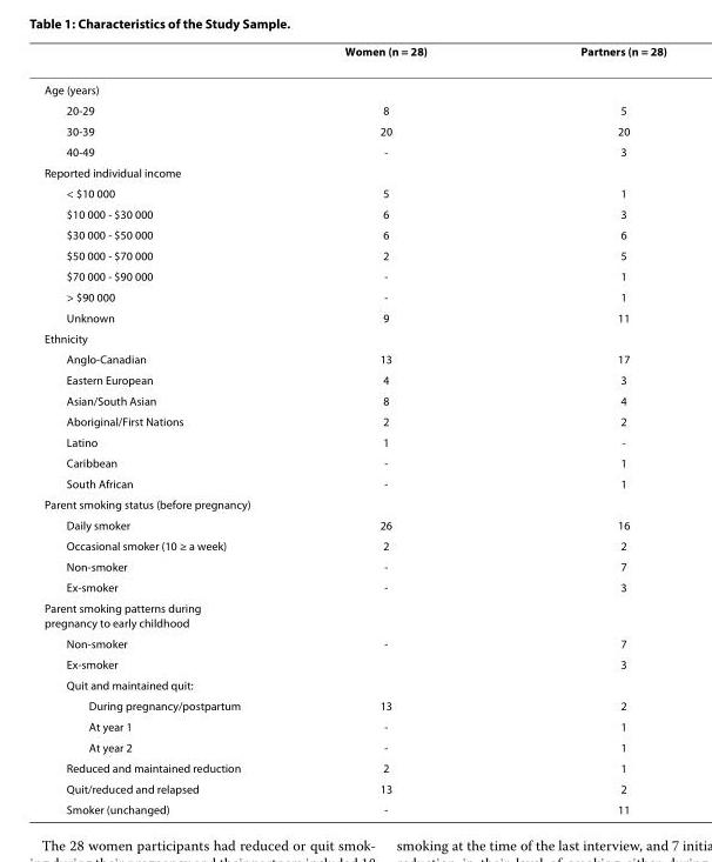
<table><thead><tr><td></td><td>Women (n = 28)</td><td>Partners (n = 28)</td></tr></thead><tbody><tr><td colspan="3">Age (years)</td></tr><tr><td>20-29</td><td>8</td><td>5</td></tr><tr><td>30-39</td><td>20</td><td>20</td></tr><tr><td>40-49</td><td>-</td><td>3</td></tr><tr><td colspan="3">Reported individual income</td></tr><tr><td>&lt; $10 000</td><td>5</td><td>1</td></tr><tr><td>$10 000 - $30 000</td><td>6</td><td>3</td></tr><tr><td>$30 000 - $50 000</td><td>6</td><td>6</td></tr><tr><td>$50 000 - $70 000</td><td>2</td><td>5</td></tr><tr><td>$70 000 - $90 000</td><td>-</td><td>1</td></tr><tr><td>&gt; $90 000</td><td>-</td><td>1</td></tr><tr><td>Unknown</td><td>9</td><td>11</td></tr><tr><td colspan="3">Ethnicity</td></tr><tr><td>Anglo-Canadian</td><td>13</td><td>17</td></tr><tr><td>Eastern European</td><td>4</td><td>3</td></tr><tr><td>Asian/South Asian</td><td>8</td><td>4</td></tr><tr><td>Aboriginal/First Nations</td><td>2</td><td>2</td></tr><tr><td>Latino</td><td>1</td><td>-</td></tr><tr><td>Caribbean</td><td>-</td><td>1</td></tr><tr><td>South African</td><td>-</td><td>1</td></tr><tr><td colspan="3">Parent smoking status (before pregnancy)</td></tr><tr><td>Daily smoker</td><td>26</td><td>16</td></tr><tr><td>Occasional smoker (10 ≥ a week)</td><td>2</td><td>2</td></tr><tr><td>Non-smoker</td><td>-</td><td>7</td></tr><tr><td>Ex-smoker</td><td>-</td><td>3</td></tr><tr><td colspan="3">Parent smoking patterns during pregnancy to early childhood</td></tr><tr><td>Non-smoker</td><td>-</td><td>7</td></tr><tr><td>Ex-smoker</td><td></td><td>3</td></tr><tr><td colspan="3">Quit and maintained quit:</td></tr><tr><td>During pregnancy/postpartum</td><td>13</td><td>2</td></tr><tr><td>At year 1</td><td>-</td><td>1</td></tr><tr><td>At year 2</td><td>-</td><td>1</td></tr><tr><td>Reduced and maintained reduction</td><td>2</td><td>1</td></tr><tr><td>Quit/reduced and relapsed</td><td>13</td><td>2</td></tr><tr><td>Smoker (unchanged)</td><td>-</td><td>11</td></tr></tbody></table>